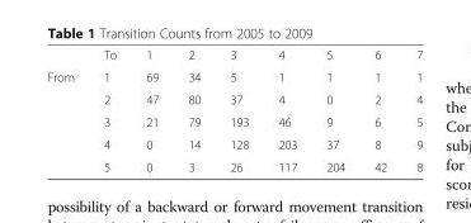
<table><thead><tr><td></td><td>To</td><td>1</td><td>2</td><td>3</td><td>4</td><td>5</td><td>6</td><td>7</td></tr></thead><tbody><tr><td rowspan="5">From</td><td>1</td><td>69</td><td>34</td><td>5</td><td>1</td><td>1</td><td>1</td><td>1</td></tr><tr><td>2</td><td>47</td><td>80</td><td>37</td><td>4</td><td>0</td><td>2</td><td>4</td></tr><tr><td>3</td><td>21</td><td>79</td><td>193</td><td>46</td><td>9</td><td>6</td><td>5</td></tr><tr><td>4</td><td>0</td><td>14</td><td>128</td><td>203</td><td>37</td><td>8</td><td>9</td></tr><tr><td>5</td><td>0</td><td>3</td><td>26</td><td>117</td><td>204</td><td>42</td><td>8</td></tr></tbody></table>